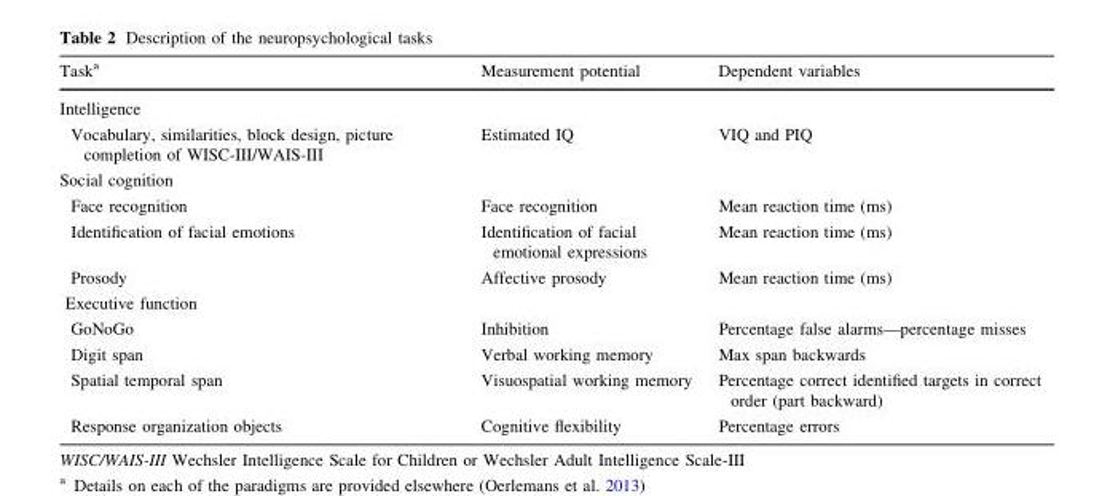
<table><thead><tr><td>Task<sup>a</sup></td><td>Measurement potential</td><td>Dependent variables</td></tr></thead><tbody><tr><td colspan="3">Intelligence</td></tr><tr><td>Vocabulary, similarities, block design, picture completion of WISC-III/WAIS-III</td><td>Estimated IQ</td><td>VIQ and PIQ</td></tr><tr><td colspan="3">Social cognition</td></tr><tr><td>Face recognition</td><td>Face recognition</td><td>Mean reaction time (ms)</td></tr><tr><td>Identification of facial emotions</td><td>Identification of facial emotional expressions</td><td>Mean reaction time (ms)</td></tr><tr><td>Prosody</td><td>Affective prosody</td><td>Mean reaction time (ms)</td></tr><tr><td colspan="3">Executive function</td></tr><tr><td>GoNoGo</td><td>Inhibition</td><td>Percentage false alarms—percentage misses</td></tr><tr><td>Digit span</td><td>Verbal working memory</td><td>Max span backwards</td></tr><tr><td>Spatial temporal span</td><td>Visuospatial working memory</td><td>Percentage correct identified targets in correct order (part backward)</td></tr><tr><td>Response organization objects</td><td>Cognitive flexibility</td><td>Percentage errors</td></tr></tbody></table>